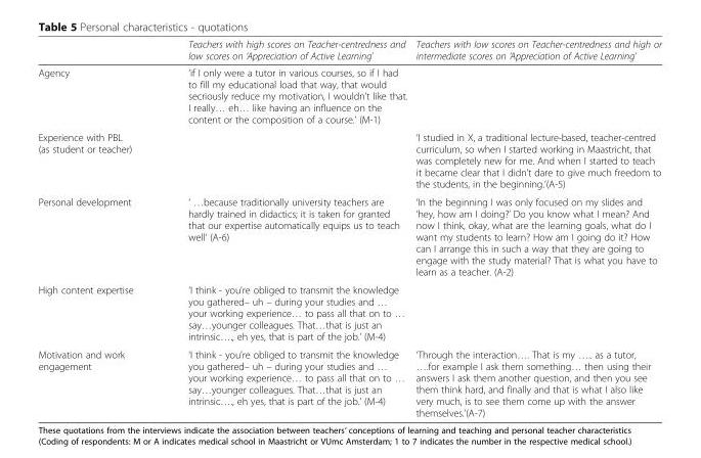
<table><thead><tr><td></td><td>Teachers with high scores on Teacher-centredness and low scores on ‘Appreciation of Active Learning’</td><td>Teachers with low scores on Teacher-centredness and high or intermediate scores on ‘Appreciation of Active Learning’</td></tr></thead><tbody><tr><td>Agency</td><td>‘if I only were a tutor in various courses, so if I had to fill my educational load that way, that would secriously reduce my motivation, I wouldn’t like that. I really… eh… like having an influence on the content or the composition of a course.’ (M-1)</td><td></td></tr><tr><td>Experience with PBL (as student or teacher)</td><td></td><td>‘I studied in X, a traditional lecture-based, teacher-centred curriculum, so when I started working in Maastricht, that was completely new for me. And when I started to teach it became clear that I didn’t dare to give much freedom to the students, in the beginning.’(A-5)</td></tr><tr><td>Personal development</td><td>‘ …because traditionally university teachers are hardly trained in didactics; it is taken for granted that our expertise automatically equips us to teach well‘ (A-6)</td><td>‘In the beginning I was only focused on my slides and ‘hey, how am I doing?’ Do you know what I mean? And now I think, okay, what are the learning goals, what do I want my students to learn? How am I going do it? How can I arrange this in such a way that they are going to engage with the study material? That is what you have to learn as a teacher. (A-2)</td></tr><tr><td>High content expertise</td><td>‘I think - you’re obliged to transmit the knowledge you gathered– uh – during your studies and … your working experience… to pass all that on to … say…younger colleagues. That…that is just an intrinsic…., eh yes, that is part of the job.’ (M-4)</td><td></td></tr><tr><td>Motivation and work engagement</td><td>‘I think - you’re obliged to transmit the knowledge you gathered– uh – during your studies and … your working experience… to pass all that on to … say…younger colleagues. That…that is just an intrinsic…., eh yes, that is part of the job.’ (M-4)</td><td>‘Through the interaction…. That is my ….. as a tutor, ….for example I ask them something… then using their answers I ask them another question, and then you see them think hard, and finally and that is what I also like very much, is to see them come up with the answer themselves.’(A-7)</td></tr></tbody></table>